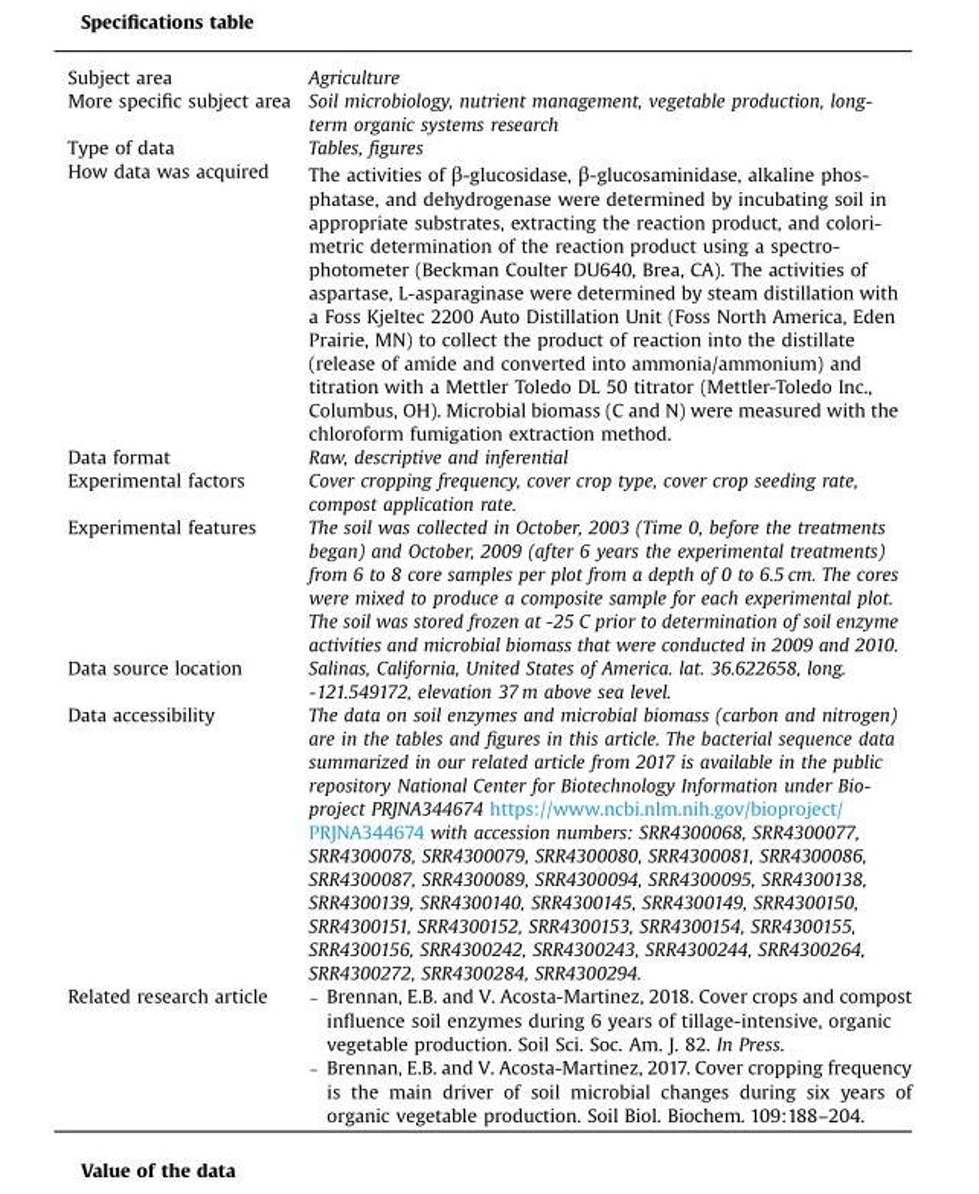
<table><thead><tr><td>Subject area</td><td>Agriculture</td></tr></thead><tbody><tr><td>More specific subject area</td><td>Soil microbiology, nutrient management, vegetable production, long- term organic systems research</td></tr><tr><td>Type of data</td><td>Tables, figures</td></tr><tr><td>How data was acquired</td><td>The activities of β-glucosidase, β-glucosaminidase, alkaline phos- phatase, and dehydrogenase were determined by incubating soil in appropriate substrates, extracting the reaction product, and colori- metric determination of the reaction product using a spectro- photometer (Beckman Coulter DU640, Brea, CA). The activities of aspartase, L-asparaginase were determined by steam distillation with a Foss Kjeltec 2200 Auto Distillation Unit (Foss North America, Eden Prairie, MN) to collect the product of reaction into the distillate (release of amide and converted into ammonia/ammonium) and titration with a Mettler Toledo DL 50 titrator (Mettler-Toledo Inc., Columbus, OH). Microbial biomass (C and N) were measured with the chloroform fumigation extraction method.</td></tr><tr><td>Data format</td><td>Raw, descriptive and inferential</td></tr><tr><td>Experimental factors</td><td>Cover cropping frequency, cover crop type, cover crop seeding rate, compost application rate.</td></tr><tr><td>Experimental features</td><td>The soil was collected in October, 2003 (Time 0, before the treatments began) and October, 2009 (after 6 years the experimental treatments) from 6 to 8 core samples per plot from a depth of 0 to 6.5 cm. The cores were mixed to produce a composite sample for each experimental plot. The soil was stored frozen at -25 C prior to determination of soil enzyme activities and microbial biomass that were conducted in 2009 and 2010.</td></tr><tr><td>Data source location</td><td>Salinas, California, United States of America. lat. 36.622658, long. -121.549172, elevation 37 m above sea level.</td></tr><tr><td>Data accessibility</td><td>The data on soil enzymes and microbial biomass (carbon and nitrogen) are in the tables and figures in this article. The bacterial sequence data summarized in our related article from 2017 is available in the public repository National Center for Biotechnology Information under Bio- project PRJNA344674 https://www.ncbi.nlm.nih.gov/bioproject/ PRJNA344674 with accession numbers: SRR4300068, SRR4300077, SRR4300078, SRR4300079, SRR4300080, SRR4300081, SRR4300086, SRR4300087, SRR4300089, SRR4300094, SRR4300095, SRR4300138, SRR4300139, SRR4300140, SRR4300145, SRR4300149, SRR4300150, SRR4300151, SRR4300152, SRR4300153, SRR4300154, SRR4300155, SRR4300156, SRR4300242, SRR4300243, SRR4300244, SRR4300264, SRR4300272, SRR4300284, SRR4300294.</td></tr><tr><td>Related research article</td><td>– Brennan, E.B. and V. Acosta-Martinez, 2018. Cover crops and compost influence soil enzymes during 6 years of tillage-intensive, organic vegetable production. Soil Sci. Soc. Am. J. 82. In Press. – Brennan, E.B. and V. Acosta-Martinez, 2017. Cover cropping frequency is the main driver of soil microbial changes during six years of organic vegetable production. Soil Biol. Biochem. 109:188–204.</td></tr></tbody></table>